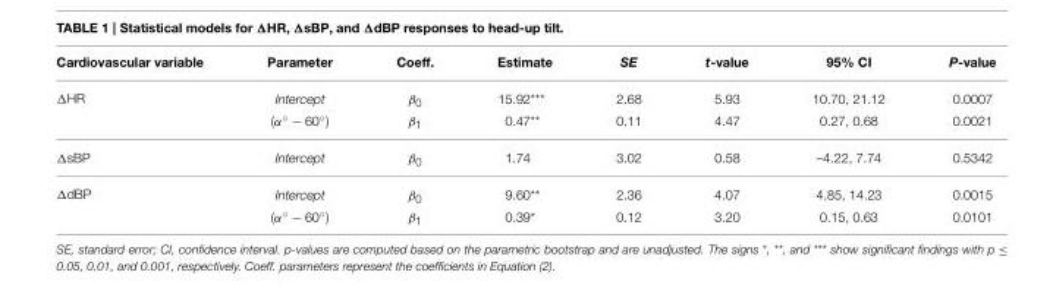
<table><thead><tr><td>Cardiovascular variable</td><td>Parameter</td><td>Coeff.</td><td>Estimate</td><td>SE</td><td>t-value</td><td>95% CI</td><td>P-value</td></tr></thead><tbody><tr><td rowspan="2">ΔHR</td><td>Intercept</td><td>β<sub>0</sub></td><td>15.92***</td><td>2.68</td><td>5.93</td><td>10.70, 21.12</td><td>0.0007</td></tr><tr><td>(α◦ − 60◦)</td><td>β<sub>1</sub></td><td>0.47**</td><td>0.11</td><td>4.47</td><td>0.27, 0.68</td><td>0.0021</td></tr><tr><td>ΔsBP</td><td>Intercept</td><td>β<sub>0</sub></td><td>1.74</td><td>3.02</td><td>0.58</td><td>–4.22, 7.74</td><td>0.5342</td></tr><tr><td rowspan="2">ΔdBP</td><td>Intercept</td><td>β<sub>0</sub></td><td>9.60**</td><td>2.36</td><td>4.07</td><td>4.85, 14.23</td><td>0.0015</td></tr><tr><td>(α◦ − 60◦)</td><td>β<sub>1</sub></td><td>0.39*</td><td>0.12</td><td>3.20</td><td>0.15, 0.63</td><td>0.0101</td></tr></tbody></table>